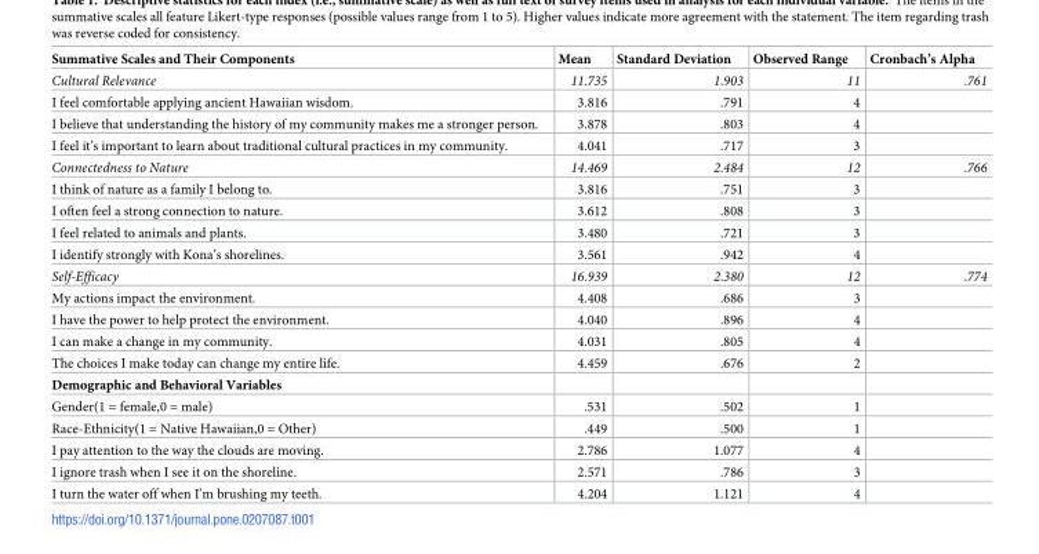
<table><thead><tr><td>Summative Scales and Their Components</td><td>Mean</td><td>Standard Deviation</td><td>Observed Range</td><td>Cronbach’s Alpha</td></tr></thead><tbody><tr><td>Cultural Relevance</td><td>11.735</td><td>1.903</td><td>11</td><td>.761</td></tr><tr><td>I feel comfortable applying ancient Hawaiian wisdom.</td><td>3.816</td><td>.791</td><td>4</td><td></td></tr><tr><td>I believe that understanding the history of my community makes me a stronger person.</td><td>3.878</td><td>.803</td><td>4</td><td></td></tr><tr><td>I feel it’s important to learn about traditional cultural practices in my community.</td><td>4.041</td><td>.717</td><td>3</td><td></td></tr><tr><td>Connectedness to Nature</td><td>14.469</td><td>2.484</td><td>12</td><td>.766</td></tr><tr><td>I think of nature as a family I belong to.</td><td>3.816</td><td>.751</td><td>3</td><td></td></tr><tr><td>I often feel a strong connection to nature.</td><td>3.612</td><td>.808</td><td>3</td><td></td></tr><tr><td>I feel related to animals and plants.</td><td>3.480</td><td>.721</td><td>3</td><td></td></tr><tr><td>I identify strongly with Kona’s shorelines.</td><td>3.561</td><td>.942</td><td>4</td><td></td></tr><tr><td>Self-Efficacy</td><td>16.939</td><td>2.380</td><td>12</td><td>.774</td></tr><tr><td>My actions impact the environment.</td><td>4.408</td><td>.686</td><td>3</td><td></td></tr><tr><td>I have the power to help protect the environment.</td><td>4.040</td><td>.896</td><td>4</td><td></td></tr><tr><td>I can make a change in my community.</td><td>4.031</td><td>.805</td><td>4</td><td></td></tr><tr><td>The choices I make today can change my entire life.</td><td>4.459</td><td>.676</td><td>2</td><td></td></tr><tr><td colspan="5">Demographic and Behavioral Variables</td></tr><tr><td>Gender(1 = female,0 = male)</td><td>.531</td><td>.502</td><td>1</td><td></td></tr><tr><td>Race-Ethnicity(1 = Native Hawaiian,0 = Other)</td><td>.449</td><td>.500</td><td>1</td><td></td></tr><tr><td>I pay attention to the way the clouds are moving.</td><td>2.786</td><td>1.077</td><td>4</td><td></td></tr><tr><td>I ignore trash when I see it on the shoreline.</td><td>2.571</td><td>.786</td><td>3</td><td></td></tr><tr><td>I turn the water off when I’m brushing my teeth.</td><td>4.204</td><td>1.121</td><td>4</td><td></td></tr></tbody></table>